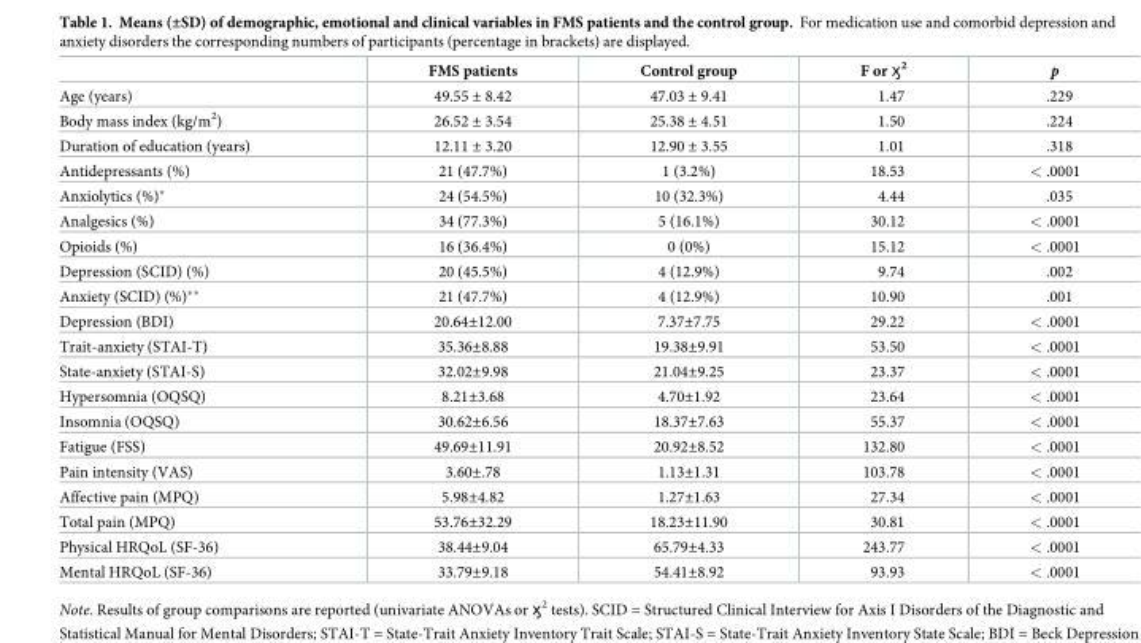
<table><thead><tr><td></td><td>FMS patients</td><td>Control group</td><td>F or ӽ<sup>2</sup></td><td>p</td></tr></thead><tbody><tr><td>Age (years)</td><td>49.55 ± 8.42</td><td>47.03 ± 9.41</td><td>1.47</td><td>.229</td></tr><tr><td>Body mass index (kg/m<sup>2</sup>)</td><td>26.52 ± 3.54</td><td>25.38 ± 4.51</td><td>1.50</td><td>.224</td></tr><tr><td>Duration of education (years)</td><td>12.11 ± 3.20</td><td>12.90 ± 3.55</td><td>1.01</td><td>.318</td></tr><tr><td>Antidepressants (%)</td><td>21 (47.7%)</td><td>1 (3.2%)</td><td>18.53</td><td>&lt; .0001</td></tr><tr><td>Anxiolytics (%)*</td><td>24 (54.5%)</td><td>10 (32.3%)</td><td>4.44</td><td>.035</td></tr><tr><td>Analgesics (%)</td><td>34 (77.3%)</td><td>5 (16.1%)</td><td>30.12</td><td>&lt; .0001</td></tr><tr><td>Opioids (%)</td><td>16 (36.4%)</td><td>0 (0%)</td><td>15.12</td><td>&lt; .0001</td></tr><tr><td>Depression (SCID) (%)</td><td>20 (45.5%)</td><td>4 (12.9%)</td><td>9.74</td><td>.002</td></tr><tr><td>Anxiety (SCID) (%)**</td><td>21 (47.7%)</td><td>4 (12.9%)</td><td>10.90</td><td>.001</td></tr><tr><td>Depression (BDI)</td><td>20.64±12.00</td><td>7.37±7.75</td><td>29.22</td><td>&lt; .0001</td></tr><tr><td>Trait-anxiety (STAI-T)</td><td>35.36±8.88</td><td>19.38±9.91</td><td>53.50</td><td>&lt; .0001</td></tr><tr><td>State-anxiety (STAI-S)</td><td>32.02±9.98</td><td>21.04±9.25</td><td>23.37</td><td>&lt; .0001</td></tr><tr><td>Hypersomnia (OQSQ)</td><td>8.21±3.68</td><td>4.70±1.92</td><td>23.64</td><td>&lt; .0001</td></tr><tr><td>Insomnia (OQSQ)</td><td>30.62±6.56</td><td>18.37±7.63</td><td>55.37</td><td>&lt; .0001</td></tr><tr><td>Fatigue (FSS)</td><td>49.69±11.91</td><td>20.92±8.52</td><td>132.80</td><td>&lt; .0001</td></tr><tr><td>Pain intensity (VAS)</td><td>3.60±.78</td><td>1.13±1.31</td><td>103.78</td><td>&lt; .0001</td></tr><tr><td>Affective pain (MPQ)</td><td>5.98±4.82</td><td>1.27±1.63</td><td>27.34</td><td>&lt; .0001</td></tr><tr><td>Total pain (MPQ)</td><td>53.76±32.29</td><td>18.23±11.90</td><td>30.81</td><td>&lt; .0001</td></tr><tr><td>Physical HRQoL (SF-36)</td><td>38.44±9.04</td><td>65.79±4.33</td><td>243.77</td><td>&lt; .0001</td></tr><tr><td>Mental HRQoL (SF-36)</td><td>33.79±9.18</td><td>54.41±8.92</td><td>93.93</td><td>&lt; .0001</td></tr></tbody></table>